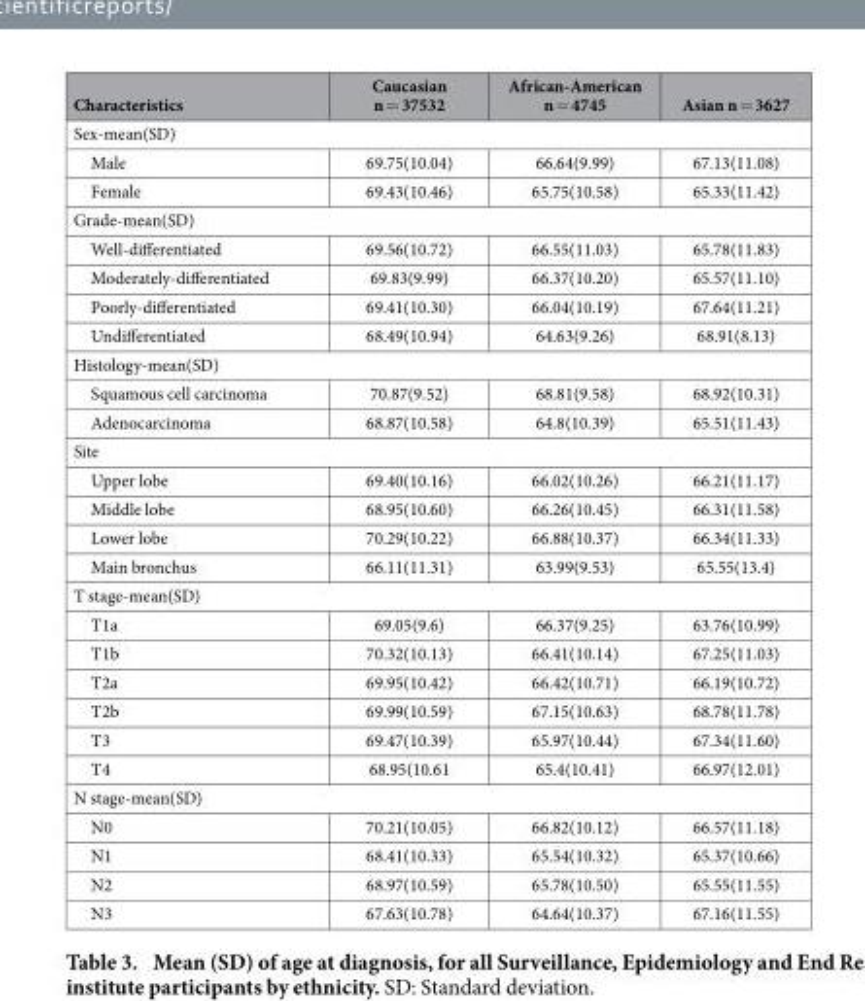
<table><thead><tr><td>Characteristics</td><td>Caucasian n = 37532</td><td>African-American n = 4745</td><td>Asian n = 3627</td></tr></thead><tbody><tr><td colspan="4">Sex-mean(SD)</td></tr><tr><td>Male</td><td>69.75(10.04)</td><td>66.64(9.99)</td><td>67.13(11.08)</td></tr><tr><td>Female</td><td>69.43(10.46)</td><td>65.75(10.58)</td><td>65.33(11.42)</td></tr><tr><td colspan="4">Grade-mean(SD)</td></tr><tr><td>Well-differentiated</td><td>69.56(10.72)</td><td>66.55(11.03)</td><td>65.78(11.83)</td></tr><tr><td>Moderately-differentiated</td><td>69.83(9.99)</td><td>66.37(10.20)</td><td>65.57(11.10)</td></tr><tr><td>Poorly-differentiated</td><td>69.41(10.30)</td><td>66.04(10.19)</td><td>67.64(11.21)</td></tr><tr><td>Undifferentiated</td><td>68.49(10.94)</td><td>64.63(9.26)</td><td>68.91(8.13)</td></tr><tr><td colspan="4">Histology-mean(SD)</td></tr><tr><td>Squamous cell carcinoma</td><td>70.87(9.52)</td><td>68.81(9.58)</td><td>68.92(10.31)</td></tr><tr><td>Adenocarcinoma</td><td>68.87(10.58)</td><td>64.8(10.39)</td><td>65.51(11.43)</td></tr><tr><td colspan="4">Site</td></tr><tr><td>Upper lobe</td><td>69.40(10.16)</td><td>66.02(10.26)</td><td>66.21(11.17)</td></tr><tr><td>Middle lobe</td><td>68.95(10.60)</td><td>66.26(10.45)</td><td>66.31(11.58)</td></tr><tr><td>Lower lobe</td><td>70.29(10.22)</td><td>66.88(10.37)</td><td>66.34(11.33)</td></tr><tr><td>Main bronchus</td><td>66.11(11.31)</td><td>63.99(9.53)</td><td>65.55(13.4)</td></tr><tr><td colspan="4">T stage-mean(SD)</td></tr><tr><td>T1a</td><td>69.05(9.6)</td><td>66.37(9.25)</td><td>63.76(10.99)</td></tr><tr><td>T1b</td><td>70.32(10.13)</td><td>66.41(10.14)</td><td>67.25(11.03)</td></tr><tr><td>T2a</td><td>69.95(10.42)</td><td>66.42(10.71)</td><td>66.19(10.72)</td></tr><tr><td>T2b</td><td>69.99(10.59)</td><td>67.15(10.63)</td><td>68.78(11.78)</td></tr><tr><td>T3</td><td>69.47(10.39)</td><td>65.97(10.44)</td><td>67.34(11.60)</td></tr><tr><td>T4</td><td>68.95(10.61</td><td>65.4(10.41)</td><td>66.97(12.01)</td></tr><tr><td colspan="4">N stage-mean(SD)</td></tr><tr><td>N0</td><td>70.21(10.05)</td><td>66.82(10.12)</td><td>66.57(11.18)</td></tr><tr><td>N1</td><td>68.41(10.33)</td><td>65.54(10.32)</td><td>65.37(10.66)</td></tr><tr><td>N2</td><td>68.97(10.59)</td><td>65.78(10.50)</td><td>65.55(11.55)</td></tr><tr><td>N3</td><td>67.63(10.78)</td><td>64.64(10.37)</td><td>67.16(11.55)</td></tr></tbody></table>